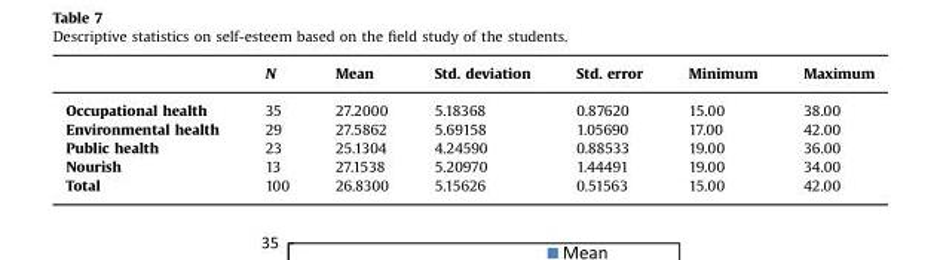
<table><thead><tr><td></td><td>N</td><td>Mean</td><td>Std. deviation</td><td>Std. error</td><td>Minimum</td><td>Maximum</td></tr></thead><tbody><tr><td>Occupational health</td><td>35</td><td>27.2000</td><td>5.18368</td><td>0.87620</td><td>15.00</td><td>38.00</td></tr><tr><td>Environmental health</td><td>29</td><td>27.5862</td><td>5.69158</td><td>1.05690</td><td>17.00</td><td>42.00</td></tr><tr><td>Public health</td><td>23</td><td>25.1304</td><td>4.24590</td><td>0.88533</td><td>19.00</td><td>36.00</td></tr><tr><td>Nourish</td><td>13</td><td>27.1538</td><td>5.20970</td><td>1.44491</td><td>19.00</td><td>34.00</td></tr><tr><td>Total</td><td>100</td><td>26.8300</td><td>5.15626</td><td>0.51563</td><td>15.00</td><td>42.00</td></tr></tbody></table>